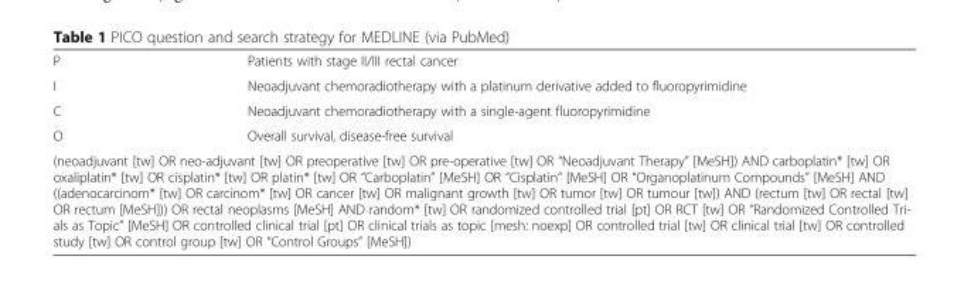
<table><tbody><tr><td>P</td><td>Patients with stage II/III rectal cancer</td></tr><tr><td>I</td><td>Neoadjuvant chemoradiotherapy with a platinum derivative added to fluoropyrimidine</td></tr><tr><td>C</td><td>Neoadjuvant chemoradiotherapy with a single-agent fluoropyrimidine</td></tr><tr><td>O</td><td>Overall survival, disease-free survival</td></tr><tr><td colspan="2">(neoadjuvant [tw] OR neo-adjuvant [tw] OR preoperative [tw] OR pre-operative [tw] OR “Neoadjuvant Therapy” [MeSH]) AND carboplatin* [tw] OR oxaliplatin* [tw] OR cisplatin* [tw] OR platin* [tw] OR “Carboplatin” [MeSH] OR “Cisplatin” [MeSH] OR “Organoplatinum Compounds” [MeSH] AND ((adenocarcinom* [tw] OR carcinom* [tw] OR cancer [tw] OR malignant growth [tw] OR tumor [tw] OR tumour [tw]) AND (rectum [tw] OR rectal [tw] OR rectum [MeSH])) OR rectal neoplasms [MeSH] AND random* [tw] OR randomized controlled trial [pt] OR RCT [tw] OR “Randomized Controlled Tri- als as Topic” [MeSH] OR controlled clinical trial [pt] OR clinical trials as topic [mesh: noexp] OR controlled trial [tw] OR clinical trial [tw] OR controlled study [tw] OR control group [tw] OR “Control Groups” [MeSH])</td></tr></tbody></table>